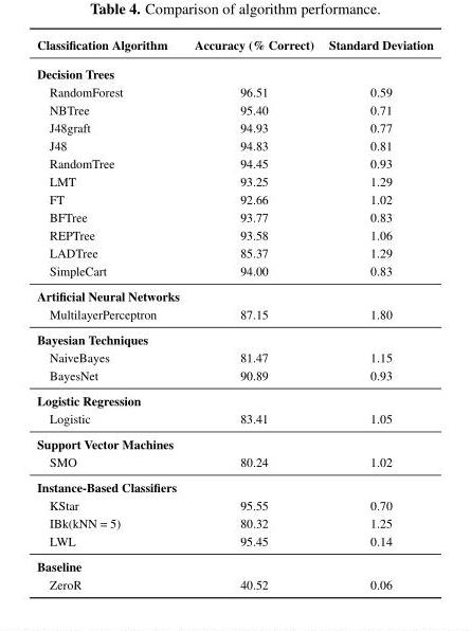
<table><thead><tr><td>Classification Algorithm</td><td>Accuracy (% Correct)</td><td>Standard Deviation</td></tr></thead><tbody><tr><td colspan="3">Decision Trees</td></tr><tr><td>RandomForest</td><td>96.51</td><td>0.59</td></tr><tr><td>NBTree</td><td>95.40</td><td>0.71</td></tr><tr><td>J48graft</td><td>94.93</td><td>0.77</td></tr><tr><td>J48</td><td>94.83</td><td>0.81</td></tr><tr><td>RandomTree</td><td>94.45</td><td>0.93</td></tr><tr><td>LMT</td><td>93.25</td><td>1.29</td></tr><tr><td>FT</td><td>92.66</td><td>1.02</td></tr><tr><td>BFTree</td><td>93.77</td><td>0.83</td></tr><tr><td>REPTree</td><td>93.58</td><td>1.06</td></tr><tr><td>LADTree</td><td>85.37</td><td>1.29</td></tr><tr><td>SimpleCart</td><td>94.00</td><td>0.83</td></tr><tr><td colspan="3">Artificial Neural Networks</td></tr><tr><td>MultilayerPerceptron</td><td>87.15</td><td>1.80</td></tr><tr><td colspan="3">Bayesian Techniques</td></tr><tr><td>NaiveBayes</td><td>81.47</td><td>1.15</td></tr><tr><td>BayesNet</td><td>90.89</td><td>0.93</td></tr><tr><td colspan="3">Logistic Regression</td></tr><tr><td>Logistic</td><td>83.41</td><td>1.05</td></tr><tr><td colspan="3">Support Vector Machines</td></tr><tr><td>SMO</td><td>80.24</td><td>1.02</td></tr><tr><td colspan="3">Instance-Based Classifiers</td></tr><tr><td>KStar</td><td>95.55</td><td>0.70</td></tr><tr><td>IBk(kNN = 5)</td><td>80.32</td><td>1.25</td></tr><tr><td>LWL</td><td>95.45</td><td>0.14</td></tr><tr><td colspan="3">Baseline</td></tr><tr><td>ZeroR</td><td>40.52</td><td>0.06</td></tr></tbody></table>